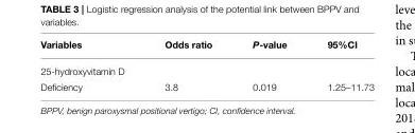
<table><thead><tr><td>Variables</td><td>Odds ratio</td><td>P-value</td><td>95%CI</td></tr></thead><tbody><tr><td colspan="4">25-hydroxyvitamin D</td></tr><tr><td>Deficiency</td><td>3.8</td><td>0.019</td><td>1.25–11.73</td></tr></tbody></table>